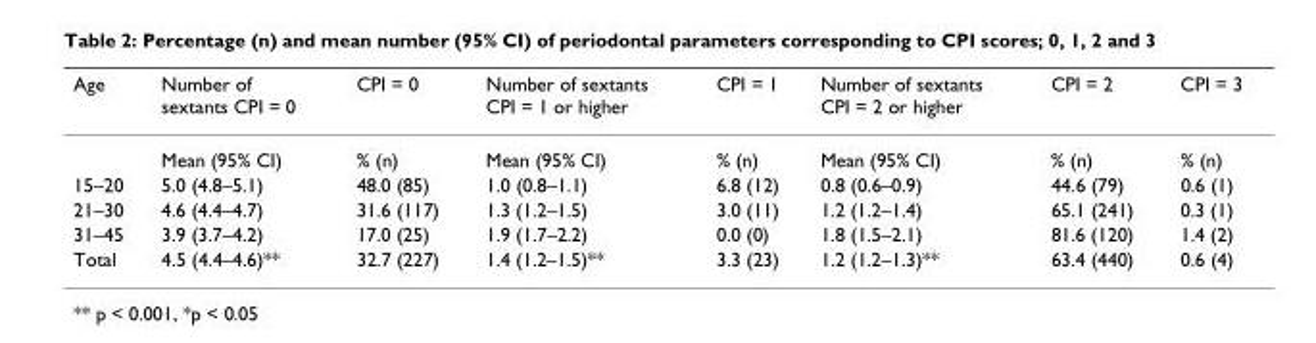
<table><thead><tr><td>Age</td><td>Number of sextants CPI = 0</td><td>CPI = 0</td><td>Number of sextants CPI = 1 or higher</td><td>CPI = 1</td><td>Number of sextants CPI = 2 or higher</td><td>CPI = 2</td><td>CPI = 3</td></tr></thead><tbody><tr><td></td><td>Mean (95% CI)</td><td>% (n)</td><td>Mean (95% CI)</td><td>% (n)</td><td>Mean (95% CI)</td><td>% (n)</td><td>% (n)</td></tr><tr><td>15–20</td><td>5.0 (4.8–5.1)</td><td>48.0 (85)</td><td>1.0 (0.8–1.1)</td><td>6.8 (12)</td><td>0.8 (0.6–0.9)</td><td>44.6 (79)</td><td>0.6 (1)</td></tr><tr><td>21–30</td><td>4.6 (4.4–4.7)</td><td>31.6 (117)</td><td>1.3 (1.2–1.5)</td><td>3.0 (11)</td><td>1.2 (1.2–1.4)</td><td>65.1 (241)</td><td>0.3 (1)</td></tr><tr><td>31–45</td><td>3.9 (3.7–4.2)</td><td>17.0 (25)</td><td>1.9 (1.7–2.2)</td><td>0.0 (0)</td><td>1.8 (1.5–2.1)</td><td>81.6 (120)</td><td>1.4 (2)</td></tr><tr><td>Total</td><td>4.5 (4.4–4.6)**</td><td>32.7 (227)</td><td>1.4 (1.2–1.5)**</td><td>3.3 (23)</td><td>1.2 (1.2–1.3)**</td><td>63.4 (440)</td><td>0.6 (4)</td></tr></tbody></table>